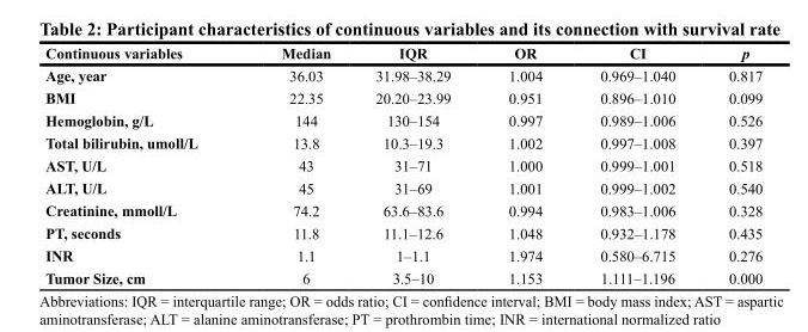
<table><thead><tr><td>Continuous variables</td><td>Median</td><td>IQR</td><td>OR</td><td>CI</td><td>p</td></tr></thead><tbody><tr><td>Age, year</td><td>36.03</td><td>31.98–38.29</td><td>1.004</td><td>0.969–1.040</td><td>0.817</td></tr><tr><td>BMI</td><td>22.35</td><td>20.20–23.99</td><td>0.951</td><td>0.896–1.010</td><td>0.099</td></tr><tr><td>Hemoglobin, g/L</td><td>144</td><td>130–154</td><td>0.997</td><td>0.989–1.006</td><td>0.526</td></tr><tr><td>Total bilirubin, umoll/L</td><td>13.8</td><td>10.3–19.3</td><td>1.002</td><td>0.997–1.008</td><td>0.397</td></tr><tr><td>AST, U/L</td><td>43</td><td>31–71</td><td>1.000</td><td>0.999–1.001</td><td>0.518</td></tr><tr><td>ALT, U/L</td><td>45</td><td>31–69</td><td>1.001</td><td>0.999–1.002</td><td>0.540</td></tr><tr><td>Creatinine, mmoll/L</td><td>74.2</td><td>63.6–83.6</td><td>0.994</td><td>0.983–1.006</td><td>0.328</td></tr><tr><td>PT, seconds</td><td>11.8</td><td>11.1–12.6</td><td>1.048</td><td>0.932–1.178</td><td>0.435</td></tr><tr><td>INR</td><td>1.1</td><td>1–1.1</td><td>1.974</td><td>0.580–6.715</td><td>0.276</td></tr><tr><td>Tumor Size, cm</td><td>6</td><td>3.5–10</td><td>1.153</td><td>1.111–1.196</td><td>0.000</td></tr></tbody></table>